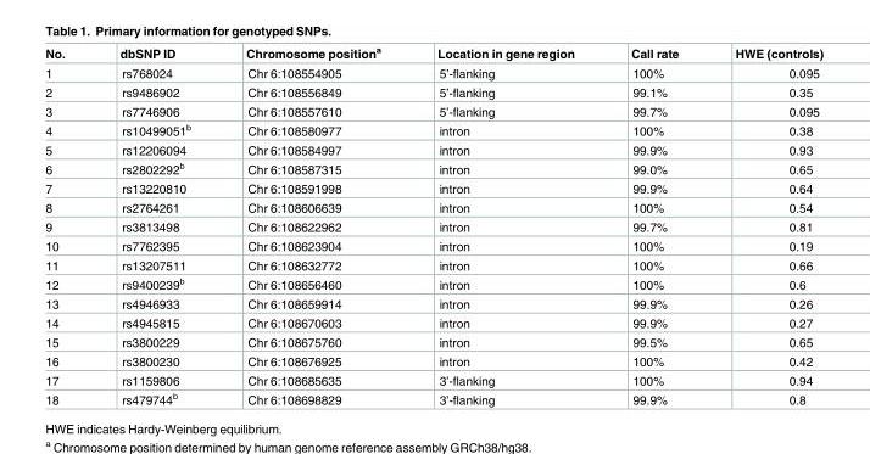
<table><thead><tr><td>No.</td><td>dbSNP ID</td><td>Chromosome position<sup>a</sup></td><td>Location in gene region</td><td>Call rate</td><td>HWE (controls)</td></tr></thead><tbody><tr><td>1</td><td>rs768024</td><td>Chr 6:108554905</td><td>5’-flanking</td><td>100%</td><td>0.095</td></tr><tr><td>2</td><td>rs9486902</td><td>Chr 6:108556849</td><td>5’-flanking</td><td>99.1%</td><td>0.35</td></tr><tr><td>3</td><td>rs7746906</td><td>Chr 6:108557610</td><td>5’-flanking</td><td>99.7%</td><td>0.095</td></tr><tr><td>4</td><td>rs10499051<sup>b</sup></td><td>Chr 6:108580977</td><td>intron</td><td>100%</td><td>0.38</td></tr><tr><td>5</td><td>rs12206094</td><td>Chr 6:108584997</td><td>intron</td><td>99.9%</td><td>0.93</td></tr><tr><td>6</td><td>rs2802292<sup>b</sup></td><td>Chr 6:108587315</td><td>intron</td><td>99.0%</td><td>0.65</td></tr><tr><td>7</td><td>rs13220810</td><td>Chr 6:108591998</td><td>intron</td><td>99.9%</td><td>0.64</td></tr><tr><td>8</td><td>rs2764261</td><td>Chr 6:108606639</td><td>intron</td><td>100%</td><td>0.54</td></tr><tr><td>9</td><td>rs3813498</td><td>Chr 6:108622962</td><td>intron</td><td>99.7%</td><td>0.81</td></tr><tr><td>10</td><td>rs7762395</td><td>Chr 6:108623904</td><td>intron</td><td>100%</td><td>0.19</td></tr><tr><td>11</td><td>rs13207511</td><td>Chr 6:108632772</td><td>intron</td><td>100%</td><td>0.66</td></tr><tr><td>12</td><td>rs9400239<sup>b</sup></td><td>Chr 6:108656460</td><td>intron</td><td>100%</td><td>0.6</td></tr><tr><td>13</td><td>rs4946933</td><td>Chr 6:108659914</td><td>intron</td><td>99.9%</td><td>0.26</td></tr><tr><td>14</td><td>rs4945815</td><td>Chr 6:108670603</td><td>intron</td><td>99.9%</td><td>0.27</td></tr><tr><td>15</td><td>rs3800229</td><td>Chr 6:108675760</td><td>intron</td><td>99.5%</td><td>0.65</td></tr><tr><td>16</td><td>rs3800230</td><td>Chr 6:108676925</td><td>intron</td><td>100%</td><td>0.42</td></tr><tr><td>17</td><td>rs1159806</td><td>Chr 6:108685635</td><td>3’-flanking</td><td>100%</td><td>0.94</td></tr><tr><td>18</td><td>rs479744<sup>b</sup></td><td>Chr 6:108698829</td><td>3’-flanking</td><td>99.9%</td><td>0.8</td></tr></tbody></table>